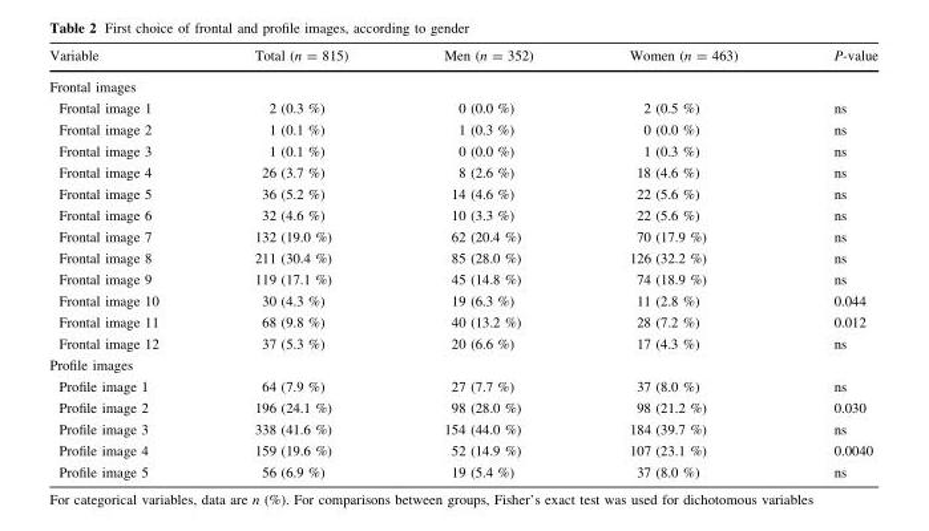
<table><thead><tr><td>Variable</td><td>Total (n = 815)</td><td>Men (n = 352)</td><td>Women (n = 463)</td><td>P-value</td></tr></thead><tbody><tr><td colspan="5">Frontal images</td></tr><tr><td>Frontal image 1</td><td>2 (0.3 %)</td><td>0 (0.0 %)</td><td>2 (0.5 %)</td><td>ns</td></tr><tr><td>Frontal image 2</td><td>1 (0.1 %)</td><td>1 (0.3 %)</td><td>0 (0.0 %)</td><td>ns</td></tr><tr><td>Frontal image 3</td><td>1 (0.1 %)</td><td>0 (0.0 %)</td><td>1 (0.3 %)</td><td>ns</td></tr><tr><td>Frontal image 4</td><td>26 (3.7 %)</td><td>8 (2.6 %)</td><td>18 (4.6 %)</td><td>ns</td></tr><tr><td>Frontal image 5</td><td>36 (5.2 %)</td><td>14 (4.6 %)</td><td>22 (5.6 %)</td><td>ns</td></tr><tr><td>Frontal image 6</td><td>32 (4.6 %)</td><td>10 (3.3 %)</td><td>22 (5.6 %)</td><td>ns</td></tr><tr><td>Frontal image 7</td><td>132 (19.0 %)</td><td>62 (20.4 %)</td><td>70 (17.9 %)</td><td>ns</td></tr><tr><td>Frontal image 8</td><td>211 (30.4 %)</td><td>85 (28.0 %)</td><td>126 (32.2 %)</td><td>ns</td></tr><tr><td>Frontal image 9</td><td>119 (17.1 %)</td><td>45 (14.8 %)</td><td>74 (18.9 %)</td><td>ns</td></tr><tr><td>Frontal image 10</td><td>30 (4.3 %)</td><td>19 (6.3 %)</td><td>11 (2.8 %)</td><td>0.044</td></tr><tr><td>Frontal image 11</td><td>68 (9.8 %)</td><td>40 (13.2 %)</td><td>28 (7.2 %)</td><td>0.012</td></tr><tr><td>Frontal image 12</td><td>37 (5.3 %)</td><td>20 (6.6 %)</td><td>17 (4.3 %)</td><td>ns</td></tr><tr><td colspan="5">Profile images</td></tr><tr><td>Profile image 1</td><td>64 (7.9 %)</td><td>27 (7.7 %)</td><td>37 (8.0 %)</td><td>ns</td></tr><tr><td>Profile image 2</td><td>196 (24.1 %)</td><td>98 (28.0 %)</td><td>98 (21.2 %)</td><td>0.030</td></tr><tr><td>Profile image 3</td><td>338 (41.6 %)</td><td>154 (44.0 %)</td><td>184 (39.7 %)</td><td>ns</td></tr><tr><td>Profile image 4</td><td>159 (19.6 %)</td><td>52 (14.9 %)</td><td>107 (23.1 %)</td><td>0.0040</td></tr><tr><td>Profile image 5</td><td>56 (6.9 %)</td><td>19 (5.4 %)</td><td>37 (8.0 %)</td><td>ns</td></tr></tbody></table>